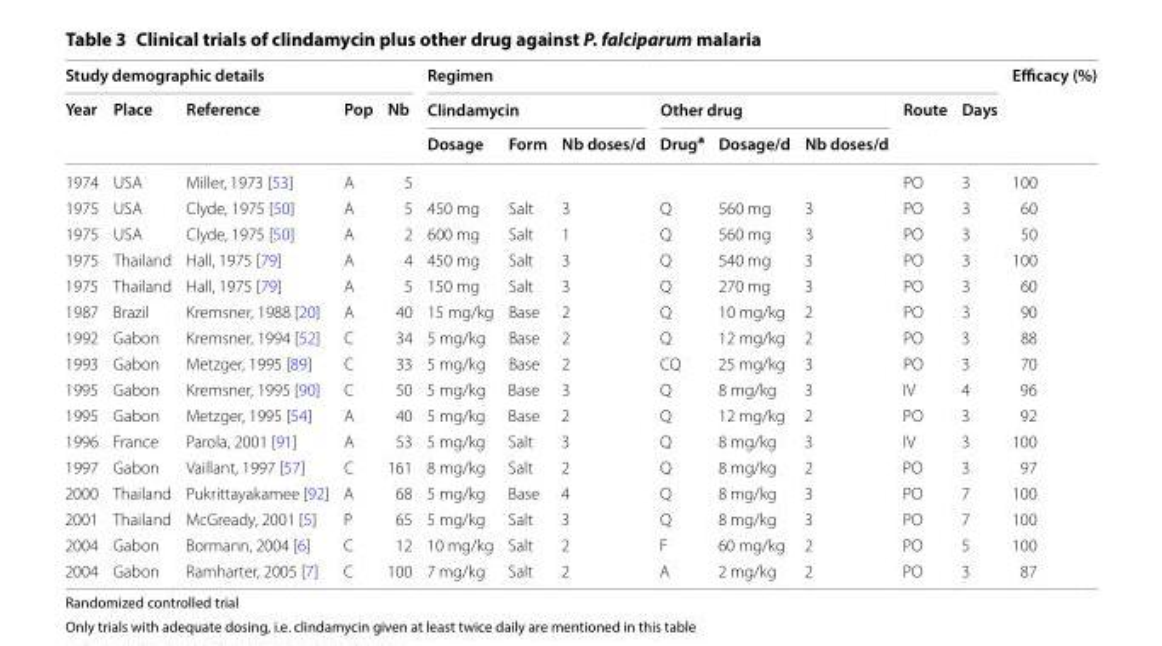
<table><thead><tr><td colspan="5">Study demographic details</td><td colspan="8">Regimen</td><td rowspan="3">Efficacy (%)</td></tr><tr><td rowspan="2">Year</td><td rowspan="2">Place</td><td rowspan="2">Reference</td><td rowspan="2">Pop</td><td rowspan="2">Nb</td><td colspan="3">Clindamycin</td><td colspan="3">Other drug</td><td rowspan="2">Route</td><td rowspan="2">Days</td></tr><tr><td>Dosage</td><td>Form</td><td>Nb doses/d</td><td>Drug<sup>a</sup></td><td>Dosage/d</td><td>Nb doses/d</td></tr></thead><tbody><tr><td>1974</td><td>USA</td><td>Miller, 1973 [53]</td><td>A</td><td>5</td><td></td><td></td><td></td><td></td><td></td><td></td><td>PO</td><td>3</td><td>100</td></tr><tr><td>1975</td><td>USA</td><td>Clyde, 1975 [50]</td><td>A</td><td>5</td><td>450 mg</td><td>Salt</td><td>3</td><td>Q</td><td>560 mg</td><td>3</td><td>PO</td><td>3</td><td>60</td></tr><tr><td>1975</td><td>USA</td><td>Clyde, 1975 [50]</td><td>A</td><td>2</td><td>600 mg</td><td>Salt</td><td>1</td><td>Q</td><td>560 mg</td><td>3</td><td>PO</td><td>3</td><td>50</td></tr><tr><td>1975</td><td>Thailand</td><td>Hall, 1975 [79]</td><td>A</td><td>4</td><td>450 mg</td><td>Salt</td><td>3</td><td>Q</td><td>540 mg</td><td>3</td><td>PO</td><td>3</td><td>100</td></tr><tr><td>1975</td><td>Thailand</td><td>Hall, 1975 [79]</td><td>A</td><td>5</td><td>150 mg</td><td>Salt</td><td>3</td><td>Q</td><td>270 mg</td><td>3</td><td>PO</td><td>3</td><td>60</td></tr><tr><td>1987</td><td>Brazil</td><td>Kremsner, 1988 [20]</td><td>A</td><td>40</td><td>15 mg/kg</td><td>Base</td><td>2</td><td>Q</td><td>10 mg/kg</td><td>2</td><td>PO</td><td>3</td><td>90</td></tr><tr><td>1992</td><td>Gabon</td><td>Kremsner, 1994 [52]</td><td>C</td><td>34</td><td>5 mg/kg</td><td>Base</td><td>2</td><td>Q</td><td>12 mg/kg</td><td>2</td><td>PO</td><td>3</td><td>88</td></tr><tr><td>1993</td><td>Gabon</td><td>Metzger, 1995 [89]</td><td>C</td><td>33</td><td>5 mg/kg</td><td>Base</td><td>2</td><td>CQ</td><td>25 mg/kg</td><td>3</td><td>PO</td><td>3</td><td>70</td></tr><tr><td>1995</td><td>Gabon</td><td>Kremsner, 1995 [90]</td><td>C</td><td>50</td><td>5 mg/kg</td><td>Base</td><td>3</td><td>Q</td><td>8 mg/kg</td><td>3</td><td>IV</td><td>4</td><td>96</td></tr><tr><td>1995</td><td>Gabon</td><td>Metzger, 1995 [54]</td><td>A</td><td>40</td><td>5 mg/kg</td><td>Base</td><td>2</td><td>Q</td><td>12 mg/kg</td><td>2</td><td>PO</td><td>3</td><td>92</td></tr><tr><td>1996</td><td>France</td><td>Parola, 2001 [91]</td><td>A</td><td>53</td><td>5 mg/kg</td><td>Salt</td><td>3</td><td>Q</td><td>8 mg/kg</td><td>3</td><td>IV</td><td>3</td><td>100</td></tr><tr><td>1997</td><td>Gabon</td><td>Vaillant, 1997 [57]</td><td>C</td><td>161</td><td>8 mg/kg</td><td>Salt</td><td>2</td><td>Q</td><td>8 mg/kg</td><td>2</td><td>PO</td><td>3</td><td>97</td></tr><tr><td>2000</td><td>Thailand</td><td>Pukrittayakamee [92]</td><td>A</td><td>68</td><td>5 mg/kg</td><td>Base</td><td>4</td><td>Q</td><td>8 mg/kg</td><td>3</td><td>PO</td><td>7</td><td>100</td></tr><tr><td>2001</td><td>Thailand</td><td>McGready, 2001 [5]</td><td>P</td><td>65</td><td>5 mg/kg</td><td>Salt</td><td>3</td><td>Q</td><td>8 mg/kg</td><td>3</td><td>PO</td><td>7</td><td>100</td></tr><tr><td>2004</td><td>Gabon</td><td>Bormann, 2004 [6]</td><td>C</td><td>12</td><td>10 mg/kg</td><td>Salt</td><td>2</td><td>F</td><td>60 mg/kg</td><td>2</td><td>PO</td><td>5</td><td>100</td></tr><tr><td>2004</td><td>Gabon</td><td>Ramharter, 2005 [7]</td><td>C</td><td>100</td><td>7 mg/kg</td><td>Salt</td><td>2</td><td>A</td><td>2 mg/kg</td><td>2</td><td>PO</td><td>3</td><td>87</td></tr></tbody></table>